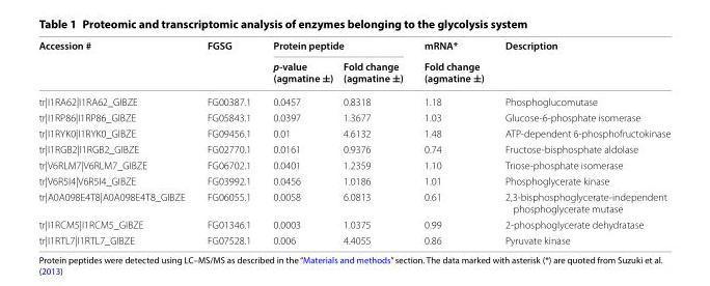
<table><thead><tr><td rowspan="2">Accession #</td><td rowspan="2">FGSG</td><td colspan="2">Protein peptide</td><td rowspan="2">mRNA* Fold change (agmatine ±)</td><td rowspan="2">Description</td></tr><tr><td>p-value (agmatine ±)</td><td>Fold change (agmatine ±)</td></tr></thead><tbody><tr><td>tr|I1RA62|I1RA62_GIBZE</td><td>FG00387.1</td><td>0.0457</td><td>0.8318</td><td>1.18</td><td>Phosphoglucomutase</td></tr><tr><td>tr|I1RP86|I1RP86_GIBZE</td><td>FG05843.1</td><td>0.0397</td><td>1.3677</td><td>1.03</td><td>Glucose-6-phosphate isomerase</td></tr><tr><td>tr|I1RYK0|I1RYK0_GIBZE</td><td>FG09456.1</td><td>0.01</td><td>4.6132</td><td>1.48</td><td>ATP-dependent 6-phosphofructokinase</td></tr><tr><td>tr|I1RGB2|I1RGB2_GIBZE</td><td>FG02770.1</td><td>0.0161</td><td>0.9376</td><td>0.74</td><td>Fructose-bisphosphate aldolase</td></tr><tr><td>tr|V6RLM7|V6RLM7_GIBZE</td><td>FG06702.1</td><td>0.0401</td><td>1.2359</td><td>1.10</td><td>Triose-phosphate isomerase</td></tr><tr><td>tr|V6R5I4|V6R5I4_GIBZE</td><td>FG03992.1</td><td>0.0456</td><td>1.0186</td><td>1.01</td><td>Phosphoglycerate kinase</td></tr><tr><td>tr|A0A098E4T8|A0A098E4T8_GIBZE</td><td>FG06055.1</td><td>0.0058</td><td>6.0813</td><td>0.61</td><td>2,3-bisphosphoglycerate-independent phosphoglycerate mutase</td></tr><tr><td>tr|I1RCM5|I1RCM5_GIBZE</td><td>FG01346.1</td><td>0.0003</td><td>1.0375</td><td>0.99</td><td>2-phosphoglycerate dehydratase</td></tr><tr><td>tr|I1RTL7|I1RTL7_GIBZE</td><td>FG07528.1</td><td>0.006</td><td>4.4055</td><td>0.86</td><td>Pyruvate kinase</td></tr></tbody></table>